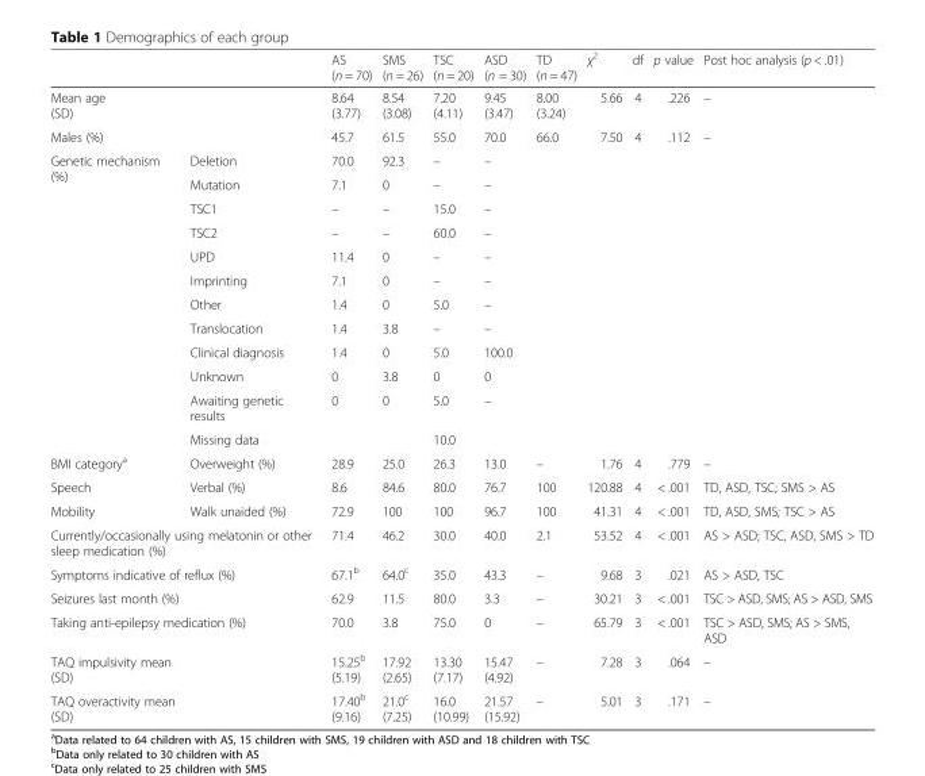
<table><thead><tr><td></td><td></td><td>AS (n = 70)</td><td>SMS (n = 26)</td><td>TSC (n = 20)</td><td>ASD (n = 30)</td><td>TD (n = 47)</td><td>χ<sup>2</sup></td><td>df</td><td>p value</td><td>Post hoc analysis (p &lt; .01)</td></tr></thead><tbody><tr><td colspan="2">Mean age (SD)</td><td>8.64 (3.77)</td><td>8.54 (3.08)</td><td>7.20 (4.11)</td><td>9.45 (3.47)</td><td>8.00 (3.24)</td><td>5.66</td><td>4</td><td>.226</td><td>–</td></tr><tr><td colspan="2">Males (%)</td><td>45.7</td><td>61.5</td><td>55.0</td><td>70.0</td><td>66.0</td><td>7.50</td><td>4</td><td>.112</td><td>–</td></tr><tr><td rowspan="12">Genetic mechanism (%)</td><td>Deletion</td><td>70.0</td><td>92.3</td><td>–</td><td>–</td><td></td><td></td><td></td><td></td><td></td></tr><tr><td>Mutation</td><td>7.1</td><td>0</td><td>–</td><td>–</td><td></td><td></td><td></td><td></td><td></td></tr><tr><td>TSC1</td><td>–</td><td>–</td><td>15.0</td><td>–</td><td></td><td></td><td></td><td></td><td></td></tr><tr><td>TSC2</td><td>–</td><td>–</td><td>60.0</td><td>–</td><td></td><td></td><td></td><td></td><td></td></tr><tr><td>UPD</td><td>11.4</td><td>0</td><td>–</td><td>–</td><td></td><td></td><td></td><td></td><td></td></tr><tr><td>Imprinting</td><td>7.1</td><td>0</td><td>–</td><td>–</td><td></td><td></td><td></td><td></td><td></td></tr><tr><td>Other</td><td>1.4</td><td>0</td><td>5.0</td><td>–</td><td></td><td></td><td></td><td></td><td></td></tr><tr><td>Translocation</td><td>1.4</td><td>3.8</td><td>–</td><td>–</td><td></td><td></td><td></td><td></td><td></td></tr><tr><td>Clinical diagnosis</td><td>1.4</td><td>0</td><td>5.0</td><td>100.0</td><td></td><td></td><td></td><td></td><td></td></tr><tr><td>Unknown</td><td>0</td><td>3.8</td><td>0</td><td>0</td><td></td><td></td><td></td><td></td><td></td></tr><tr><td>Awaiting genetic results</td><td>0</td><td>0</td><td>5.0</td><td>–</td><td></td><td></td><td></td><td></td><td></td></tr><tr><td>Missing data</td><td></td><td></td><td>10.0</td><td></td><td></td><td></td><td></td><td></td><td></td></tr><tr><td>BMI category<sup>a</sup></td><td>Overweight (%)</td><td>28.9</td><td>25.0</td><td>26.3</td><td>13.0</td><td>–</td><td>1.76</td><td>4</td><td>.779</td><td>–</td></tr><tr><td>Speech</td><td>Verbal (%)</td><td>8.6</td><td>84.6</td><td>80.0</td><td>76.7</td><td>100</td><td>120.88</td><td>4</td><td>&lt; .001</td><td>TD, ASD, TSC; SMS &gt; AS</td></tr><tr><td>Mobility</td><td>Walk unaided (%)</td><td>72.9</td><td>100</td><td>100</td><td>96.7</td><td>100</td><td>41.31</td><td>4</td><td>&lt; .001</td><td>TD, ASD, SMS; TSC &gt; AS</td></tr><tr><td colspan="2">Currently/occasionally using melatonin or other sleep medication (%)</td><td>71.4</td><td>46.2</td><td>30.0</td><td>40.0</td><td>2.1</td><td>53.52</td><td>4</td><td>&lt; .001</td><td>AS &gt; ASD; TSC, ASD, SMS &gt; TD</td></tr><tr><td colspan="2">Symptoms indicative of reflux (%)</td><td>67.1<sup>b</sup></td><td>64.0<sup>c</sup></td><td>35.0</td><td>43.3</td><td>–</td><td>9.68</td><td>3</td><td>.021</td><td>AS &gt; ASD, TSC</td></tr><tr><td colspan="2">Seizures last month (%)</td><td>62.9</td><td>11.5</td><td>80.0</td><td>3.3</td><td>–</td><td>30.21</td><td>3</td><td>&lt; .001</td><td>TSC &gt; ASD, SMS; AS &gt; ASD, SMS</td></tr><tr><td colspan="2">Taking anti-epilepsy medication (%)</td><td>70.0</td><td>3.8</td><td>75.0</td><td>0</td><td>–</td><td>65.79</td><td>3</td><td>&lt; .001</td><td>TSC &gt; ASD, SMS; AS &gt; SMS, ASD</td></tr><tr><td colspan="2">TAQ impulsivity mean (SD)</td><td>15.25<sup>b</sup> (5.19)</td><td>17.92 (2.65)</td><td>13.30 (7.17)</td><td>15.47 (4.92)</td><td>–</td><td>7.28</td><td>3</td><td>.064</td><td>–</td></tr><tr><td colspan="2">TAQ overactivity mean (SD)</td><td>17.40<sup>b</sup> (9.16)</td><td>21.0<sup>c</sup> (7.25)</td><td>16.0 (10.99)</td><td>21.57 (15.92)</td><td>–</td><td>5.01</td><td>3</td><td>.171</td><td>–</td></tr></tbody></table>